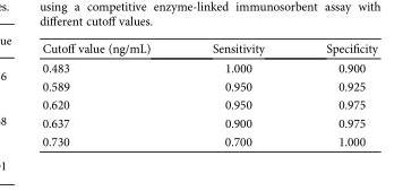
<table><thead><tr><td>Cutoff value (ng/mL)</td><td>Sensitivity</td><td>Specificity</td></tr></thead><tbody><tr><td>0.483</td><td>1.000</td><td>0.900</td></tr><tr><td>0.589</td><td>0.950</td><td>0.925</td></tr><tr><td>0.620</td><td>0.950</td><td>0.975</td></tr><tr><td>0.637</td><td>0.900</td><td>0.975</td></tr><tr><td>0.730</td><td>0.700</td><td>1.000</td></tr></tbody></table>